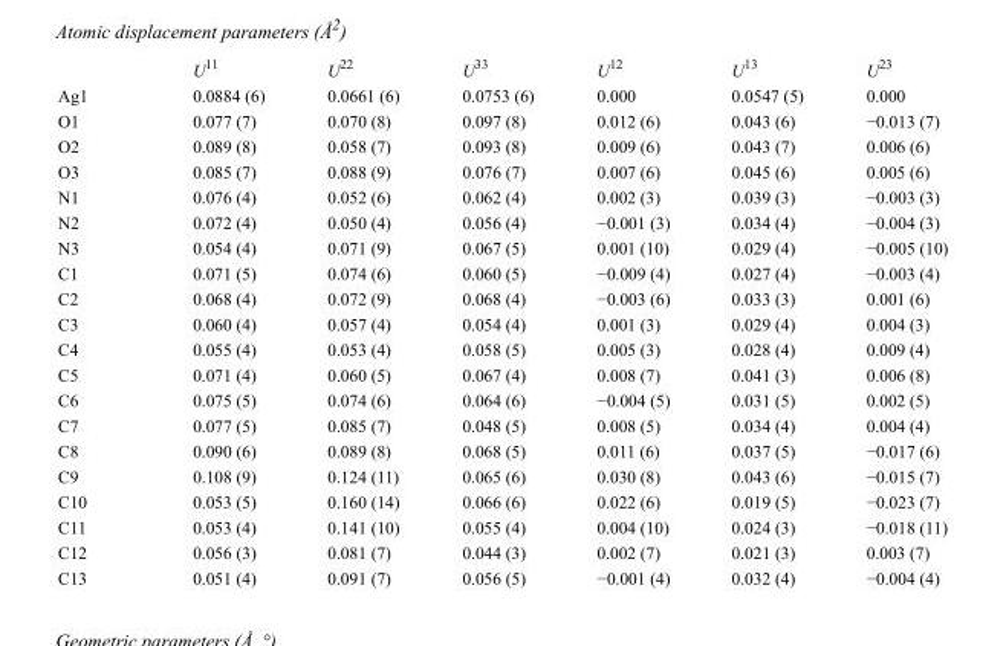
<table><thead><tr><td></td><td>U<sup>11</sup></td><td>U<sup>22</sup></td><td>U<sup>33</sup></td><td>U<sup>12</sup></td><td>U<sup>13</sup></td><td>U<sup>23</sup></td></tr></thead><tbody><tr><td>Ag1</td><td>0.0884 (6)</td><td>0.0661 (6)</td><td>0.0753 (6)</td><td>0.000</td><td>0.0547 (5)</td><td>0.000</td></tr><tr><td>O1</td><td>0.077 (7)</td><td>0.070 (8)</td><td>0.097 (8)</td><td>0.012 (6)</td><td>0.043 (6)</td><td>−0.013 (7)</td></tr><tr><td>O2</td><td>0.089 (8)</td><td>0.058 (7)</td><td>0.093 (8)</td><td>0.009 (6)</td><td>0.043 (7)</td><td>0.006 (6)</td></tr><tr><td>O3</td><td>0.085 (7)</td><td>0.088 (9)</td><td>0.076 (7)</td><td>0.007 (6)</td><td>0.045 (6)</td><td>0.005 (6)</td></tr><tr><td>N1</td><td>0.076 (4)</td><td>0.052 (6)</td><td>0.062 (4)</td><td>0.002 (3)</td><td>0.039 (3)</td><td>−0.003 (3)</td></tr><tr><td>N2</td><td>0.072 (4)</td><td>0.050 (4)</td><td>0.056 (4)</td><td>−0.001 (3)</td><td>0.034 (4)</td><td>−0.004 (3)</td></tr><tr><td>N3</td><td>0.054 (4)</td><td>0.071 (9)</td><td>0.067 (5)</td><td>0.001 (10)</td><td>0.029 (4)</td><td>−0.005 (10)</td></tr><tr><td>C1</td><td>0.071 (5)</td><td>0.074 (6)</td><td>0.060 (5)</td><td>−0.009 (4)</td><td>0.027 (4)</td><td>−0.003 (4)</td></tr><tr><td>C2</td><td>0.068 (4)</td><td>0.072 (9)</td><td>0.068 (4)</td><td>−0.003 (6)</td><td>0.033 (3)</td><td>0.001 (6)</td></tr><tr><td>C3</td><td>0.060 (4)</td><td>0.057 (4)</td><td>0.054 (4)</td><td>0.001 (3)</td><td>0.029 (4)</td><td>0.004 (3)</td></tr><tr><td>C4</td><td>0.055 (4)</td><td>0.053 (4)</td><td>0.058 (5)</td><td>0.005 (3)</td><td>0.028 (4)</td><td>0.009 (4)</td></tr><tr><td>C5</td><td>0.071 (4)</td><td>0.060 (5)</td><td>0.067 (4)</td><td>0.008 (7)</td><td>0.041 (3)</td><td>0.006 (8)</td></tr><tr><td>C6</td><td>0.075 (5)</td><td>0.074 (6)</td><td>0.064 (6)</td><td>−0.004 (5)</td><td>0.031 (5)</td><td>0.002 (5)</td></tr><tr><td>C7</td><td>0.077 (5)</td><td>0.085 (7)</td><td>0.048 (5)</td><td>0.008 (5)</td><td>0.034 (4)</td><td>0.004 (4)</td></tr><tr><td>C8</td><td>0.090 (6)</td><td>0.089 (8)</td><td>0.068 (5)</td><td>0.011 (6)</td><td>0.037 (5)</td><td>−0.017 (6)</td></tr><tr><td>C9</td><td>0.108 (9)</td><td>0.124 (11)</td><td>0.065 (6)</td><td>0.030 (8)</td><td>0.043 (6)</td><td>−0.015 (7)</td></tr><tr><td>C10</td><td>0.053 (5)</td><td>0.160 (14)</td><td>0.066 (6)</td><td>0.022 (6)</td><td>0.019 (5)</td><td>−0.023 (7)</td></tr><tr><td>C11</td><td>0.053 (4)</td><td>0.141 (10)</td><td>0.055 (4)</td><td>0.004 (10)</td><td>0.024 (3)</td><td>−0.018 (11)</td></tr><tr><td>C12</td><td>0.056 (3)</td><td>0.081 (7)</td><td>0.044 (3)</td><td>0.002 (7)</td><td>0.021 (3)</td><td>0.003 (7)</td></tr><tr><td>C13</td><td>0.051 (4)</td><td>0.091 (7)</td><td>0.056 (5)</td><td>−0.001 (4)</td><td>0.032 (4)</td><td>−0.004 (4)</td></tr></tbody></table>